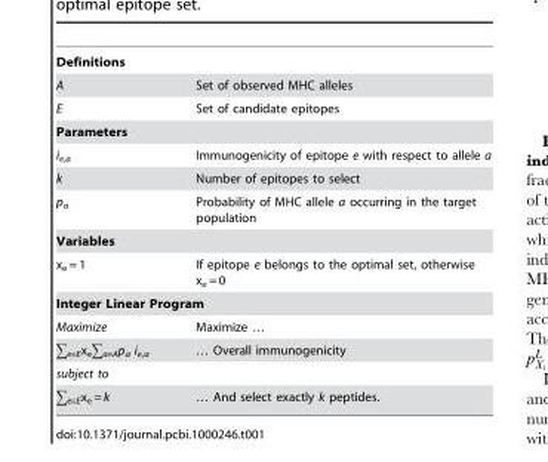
<table><tbody><tr><td colspan="2">Definitions</td></tr><tr><td>A</td><td>Set of observed MHC alleles</td></tr><tr><td>E</td><td>Set of candidate epitopes</td></tr><tr><td colspan="2">Parameters</td></tr><tr><td>i<sub>e,a</sub></td><td>Immunogenicity of epitope e with respect to allele a</td></tr><tr><td>k</td><td>Number of epitopes to select</td></tr><tr><td>p<sub>a</sub></td><td>Probability of MHC allele a occurring in the target population</td></tr><tr><td colspan="2">Variables</td></tr><tr><td>x<sub>e</sub> = 1</td><td>If epitope e belongs to the optimal set, otherwise x<sub>e</sub> = 0</td></tr><tr><td colspan="2">Integer Linear Program</td></tr><tr><td>Maximize</td><td>Maximize …</td></tr><tr><td>∑<sub>e∈E</sub>x<sub>e</sub>∑<sub>a∈A</sub>p<sub>a</sub> i<sub>e,a</sub></td><td>… Overall immunogenicity</td></tr><tr><td colspan="2">subject to</td></tr><tr><td>∑<sub>e∈E</sub>x<sub>e</sub> = k</td><td>… And select exactly k peptides.</td></tr></tbody></table>